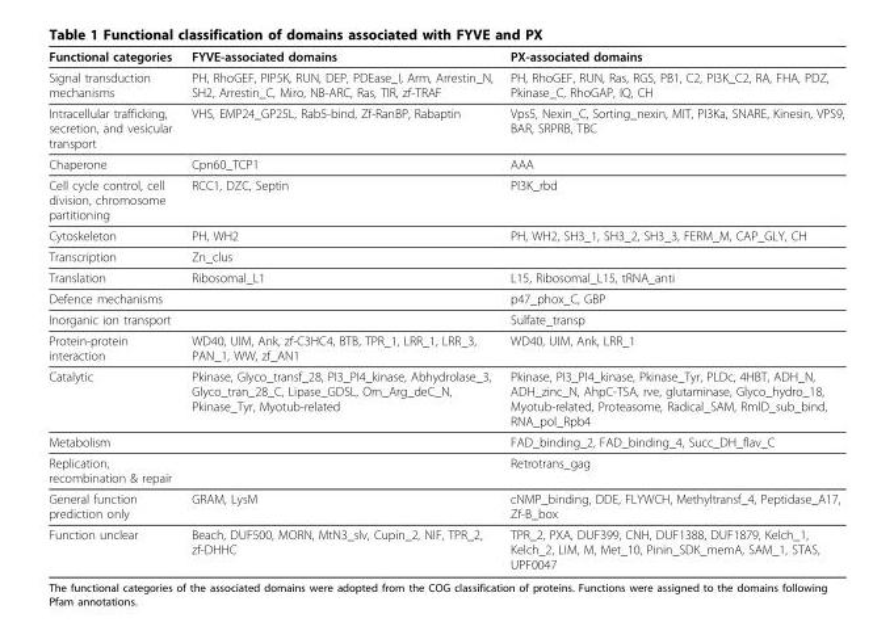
<table><thead><tr><td>Functional categories</td><td>FYVE-associated domains</td><td>PX-associated domains</td></tr></thead><tbody><tr><td>Signal transduction mechanisms</td><td>PH, RhoGEF, PIP5K, RUN, DEP, PDEase_I, Arm, Arrestin_N, SH2, Arrestin_C, Miro, NB-ARC, Ras, TIR, zf-TRAF</td><td>PH, RhoGEF, RUN, Ras, RGS, PB1, C2, PI3K_C2, RA, FHA, PDZ, Pkinase_C, RhoGAP, IQ, CH</td></tr><tr><td>Intracellular trafficking, secretion, and vesicular transport</td><td>VHS, EMP24_GP25L, Rab5-bind, Zf-RanBP, Rabaptin</td><td>Vps5, Nexin_C, Sorting_nexin, MIT, PI3Ka, SNARE, Kinesin, VPS9, BAR, SRPRB, TBC</td></tr><tr><td>Chaperone</td><td>Cpn60_TCP1</td><td>AAA</td></tr><tr><td>Cell cycle control, cell division, chromosome partitioning</td><td>RCC1, DZC, Septin</td><td>PI3K_rbd</td></tr><tr><td>Cytoskeleton</td><td>PH, WH2</td><td>PH, WH2, SH3_1, SH3_2, SH3_3, FERM_M, CAP_GLY, CH</td></tr><tr><td>Transcription</td><td>Zn_clus</td><td></td></tr><tr><td>Translation</td><td>Ribosomal_L1</td><td>L15, Ribosomal_L15, tRNA_anti</td></tr><tr><td>Defence mechanisms</td><td></td><td>p47_phox_C, GBP</td></tr><tr><td>Inorganic ion transport</td><td></td><td>Sulfate_transp</td></tr><tr><td>Protein-protein interaction</td><td>WD40, UIM, Ank, zf-C3HC4, BTB, TPR_1, LRR_1, LRR_3, PAN_1, WW, zf_AN1</td><td>WD40, UIM, Ank, LRR_1</td></tr><tr><td>Catalytic</td><td>Pkinase, Glyco_transf_28, PI3_PI4_kinase, Abhydrolase_3, Glyco_tran_28_C, Lipase_GDSL, Orn_Arg_deC_N, Pkinase_Tyr, Myotub-related</td><td>Pkinase, PI3_PI4_kinase, Pkinase_Tyr, PLDc, 4HBT, ADH_N, ADH_zinc_N, AhpC-TSA, rve, glutaminase, Glyco_hydro_18, Myotub-related, Proteasome, Radical_SAM, RmlD_sub_bind, RNA_pol_Rpb4</td></tr><tr><td>Metabolism</td><td></td><td>FAD_binding_2, FAD_binding_4, Succ_DH_flav_C</td></tr><tr><td>Replication, recombination &amp; repair</td><td></td><td>Retrotrans_gag</td></tr><tr><td>General function prediction only</td><td>GRAM, LysM</td><td>cNMP_binding, DDE, FLYWCH, Methyltransf_4, Peptidase_A17, Zf-B_box</td></tr><tr><td>Function unclear</td><td>Beach, DUF500, MORN, MtN3_slv, Cupin_2, NIF, TPR_2, zf-DHHC</td><td>TPR_2, PXA, DUF399, CNH, DUF1388, DUF1879, Kelch_1, Kelch_2, LIM, M, Met_10, Pinin_SDK_memA, SAM_1, STAS, UPF0047</td></tr></tbody></table>